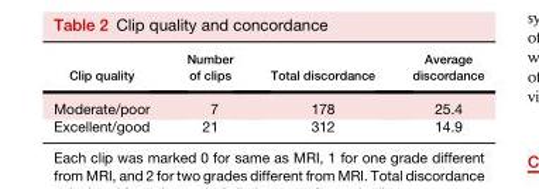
<table><thead><tr><td>Clip quality</td><td>Number of clips</td><td>Total discordance</td><td>Average discordance</td></tr></thead><tbody><tr><td>Moderate/poor</td><td>7</td><td>178</td><td>25.4</td></tr><tr><td>Excellent/good</td><td>21</td><td>312</td><td>14.9</td></tr></tbody></table>